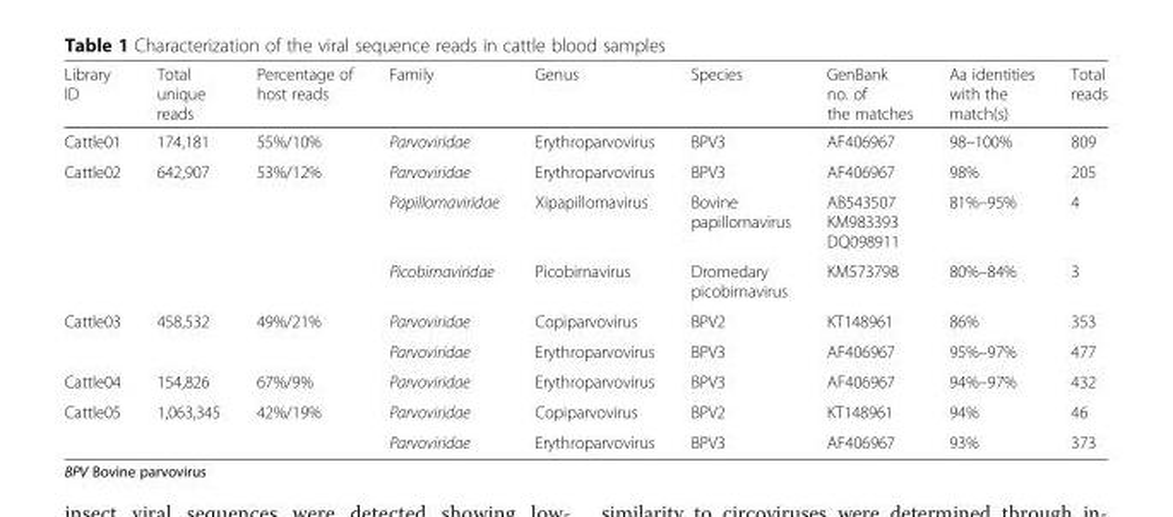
<table><thead><tr><td>Library ID</td><td>Total unique reads</td><td>Percentage of host reads</td><td>Family</td><td>Genus</td><td>Species</td><td>GenBank no. of the matches</td><td>Aa identities with the match(s)</td><td>Total reads</td></tr></thead><tbody><tr><td>Cattle01</td><td>174,181</td><td>55%/10%</td><td>Parvoviridae</td><td>Erythroparvovirus</td><td>BPV3</td><td>AF406967</td><td>98–100%</td><td>809</td></tr><tr><td rowspan="3">Cattle02</td><td rowspan="3">642,907</td><td rowspan="3">53%/12%</td><td>Parvoviridae</td><td>Erythroparvovirus</td><td>BPV3</td><td>AF406967</td><td>98%</td><td>205</td></tr><tr><td>Papillomaviridae</td><td>Xipapillomavirus</td><td>Bovine papillomavirus</td><td>AB543507 KM983393 DQ098911</td><td>81%–95%</td><td>4</td></tr><tr><td>Picobirnaviridae</td><td>Picobirnavirus</td><td>Dromedary picobirnavirus</td><td>KM573798</td><td>80%–84%</td><td>3</td></tr><tr><td rowspan="2">Cattle03</td><td rowspan="2">458,532</td><td rowspan="2">49%/21%</td><td>Parvoviridae</td><td>Copiparvovirus</td><td>BPV2</td><td>KT148961</td><td>86%</td><td>353</td></tr><tr><td>Parvoviridae</td><td>Erythroparvovirus</td><td>BPV3</td><td>AF406967</td><td>95%–97%</td><td>477</td></tr><tr><td>Cattle04</td><td>154,826</td><td>67%/9%</td><td>Parvoviridae</td><td>Erythroparvovirus</td><td>BPV3</td><td>AF406967</td><td>94%–97%</td><td>432</td></tr><tr><td rowspan="2">Cattle05</td><td rowspan="2">1,063,345</td><td rowspan="2">42%/19%</td><td>Parvoviridae</td><td>Copiparvovirus</td><td>BPV2</td><td>KT148961</td><td>94%</td><td>46</td></tr><tr><td>Parvoviridae</td><td>Erythroparvovirus</td><td>BPV3</td><td>AF406967</td><td>93%</td><td>373</td></tr></tbody></table>